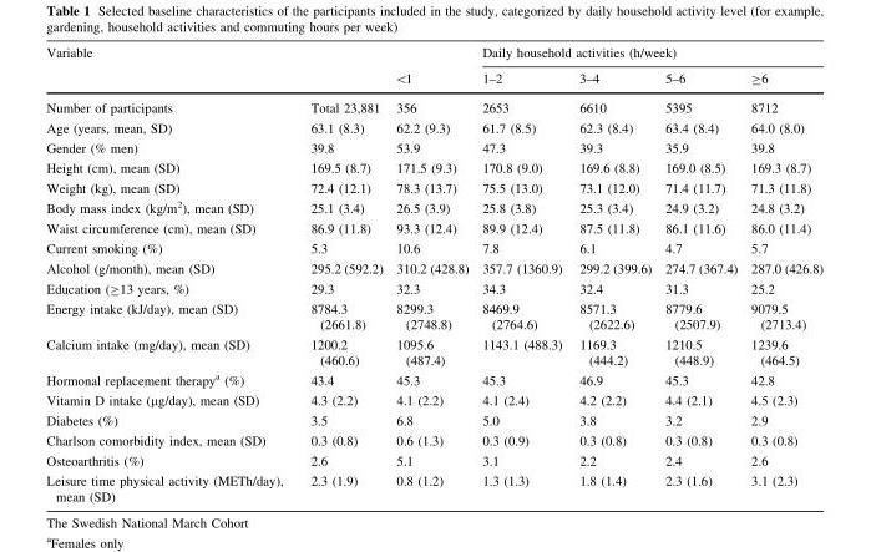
<table><thead><tr><td rowspan="2">Variable</td><td rowspan="2"></td><td rowspan="2">&lt;1</td><td colspan="4">Daily household activities (h/week)</td></tr><tr><td>1–2</td><td>3–4</td><td>5–6</td><td>≥6</td></tr></thead><tbody><tr><td>Number of participants</td><td>Total 23,881</td><td>356</td><td>2653</td><td>6610</td><td>5395</td><td>8712</td></tr><tr><td>Age (years, mean, SD)</td><td>63.1 (8.3)</td><td>62.2 (9.3)</td><td>61.7 (8.5)</td><td>62.3 (8.4)</td><td>63.4 (8.4)</td><td>64.0 (8.0)</td></tr><tr><td>Gender (% men)</td><td>39.8</td><td>53.9</td><td>47.3</td><td>39.3</td><td>35.9</td><td>39.8</td></tr><tr><td>Height (cm), mean (SD)</td><td>169.5 (8.7)</td><td>171.5 (9.3)</td><td>170.8 (9.0)</td><td>169.6 (8.8)</td><td>169.0 (8.5)</td><td>169.3 (8.7)</td></tr><tr><td>Weight (kg), mean (SD)</td><td>72.4 (12.1)</td><td>78.3 (13.7)</td><td>75.5 (13.0)</td><td>73.1 (12.0)</td><td>71.4 (11.7)</td><td>71.3 (11.8)</td></tr><tr><td>Body mass index (kg/m<sup>2</sup>), mean (SD)</td><td>25.1 (3.4)</td><td>26.5 (3.9)</td><td>25.8 (3.8)</td><td>25.3 (3.4)</td><td>24.9 (3.2)</td><td>24.8 (3.2)</td></tr><tr><td>Waist circumference (cm), mean (SD)</td><td>86.9 (11.8)</td><td>93.3 (12.4)</td><td>89.9 (12.4)</td><td>87.5 (11.8)</td><td>86.1 (11.6)</td><td>86.0 (11.4)</td></tr><tr><td>Current smoking (%)</td><td>5.3</td><td>10.6</td><td>7.8</td><td>6.1</td><td>4.7</td><td>5.7</td></tr><tr><td>Alcohol (g/month), mean (SD)</td><td>295.2 (592.2)</td><td>310.2 (428.8)</td><td>357.7 (1360.9)</td><td>299.2 (399.6)</td><td>274.7 (367.4)</td><td>287.0 (426.8)</td></tr><tr><td>Education (≥13 years, %)</td><td>29.3</td><td>32.3</td><td>34.3</td><td>32.4</td><td>31.3</td><td>25.2</td></tr><tr><td>Energy intake (kJ/day), mean (SD)</td><td>8784.3 (2661.8)</td><td>8299.3 (2748.8)</td><td>8469.9 (2764.6)</td><td>8571.3 (2622.6)</td><td>8779.6 (2507.9)</td><td>9079.5 (2713.4)</td></tr><tr><td>Calcium intake (mg/day), mean (SD)</td><td>1200.2 (460.6)</td><td>1095.6 (487.4)</td><td>1143.1 (488.3)</td><td>1169.3 (444.2)</td><td>1210.5 (448.9)</td><td>1239.6 (464.5)</td></tr><tr><td>Hormonal replacement therapy<sup>a</sup> (%)</td><td>43.4</td><td>45.3</td><td>45.3</td><td>46.9</td><td>45.3</td><td>42.8</td></tr><tr><td>Vitamin D intake (μg/day), mean (SD)</td><td>4.3 (2.2)</td><td>4.1 (2.2)</td><td>4.1 (2.4)</td><td>4.2 (2.2)</td><td>4.4 (2.1)</td><td>4.5 (2.3)</td></tr><tr><td>Diabetes (%)</td><td>3.5</td><td>6.8</td><td>5.0</td><td>3.8</td><td>3.2</td><td>2.9</td></tr><tr><td>Charlson comorbidity index, mean (SD)</td><td>0.3 (0.8)</td><td>0.6 (1.3)</td><td>0.3 (0.9)</td><td>0.3 (0.8)</td><td>0.3 (0.8)</td><td>0.3 (0.8)</td></tr><tr><td>Osteoarthritis (%)</td><td>2.6</td><td>5.1</td><td>3.1</td><td>2.2</td><td>2.4</td><td>2.6</td></tr><tr><td>Leisure time physical activity (METh/day), mean (SD)</td><td>2.3 (1.9)</td><td>0.8 (1.2)</td><td>1.3 (1.3)</td><td>1.8 (1.4)</td><td>2.3 (1.6)</td><td>3.1 (2.3)</td></tr></tbody></table>